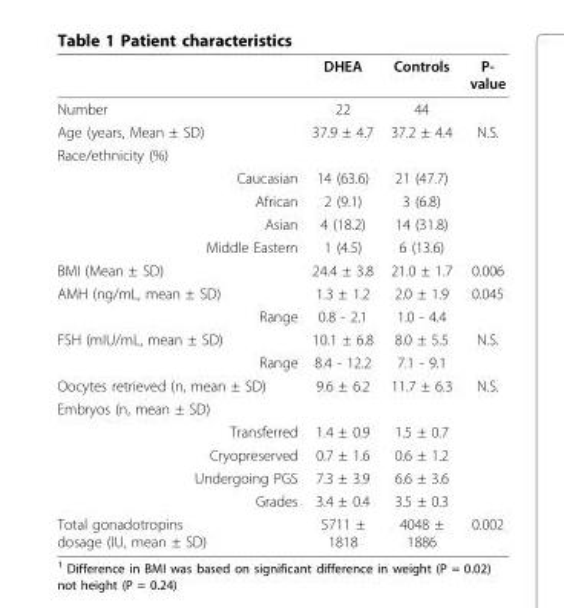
<table><thead><tr><td></td><td>DHEA</td><td>Controls</td><td>P- value</td></tr></thead><tbody><tr><td>Number</td><td>22</td><td>44</td><td></td></tr><tr><td>Age (years, Mean ± SD)</td><td>37.9 ± 4.7</td><td>37.2 ± 4.4</td><td>N.S.</td></tr><tr><td colspan="4">Race/ethnicity (%)</td></tr><tr><td>Caucasian</td><td>14 (63.6)</td><td>21 (47.7)</td><td></td></tr><tr><td>African</td><td>2 (9.1)</td><td>3 (6.8)</td><td></td></tr><tr><td>Asian</td><td>4 (18.2)</td><td>14 (31.8)</td><td></td></tr><tr><td>Middle Eastern</td><td>1 (4.5)</td><td>6 (13.6)</td><td></td></tr><tr><td>BMI (Mean ± SD)</td><td>24.4 ± 3.8</td><td>21.0 ± 1.7</td><td>0.006</td></tr><tr><td>AMH (ng/mL, mean ± SD)</td><td>1.3 ± 1.2</td><td>2.0 ± 1.9</td><td>0.045</td></tr><tr><td>Range</td><td>0.8 - 2.1</td><td>1.0 - 4.4</td><td></td></tr><tr><td>FSH (mIU/mL, mean ± SD)</td><td>10.1 ± 6.8</td><td>8.0 ± 5.5</td><td>N.S.</td></tr><tr><td>Range</td><td>8.4 - 12.2</td><td>7.1 - 9.1</td><td></td></tr><tr><td>Oocytes retrieved (n, mean ± SD)</td><td>9.6 ± 6.2</td><td>11.7 ± 6.3</td><td>N.S.</td></tr><tr><td colspan="4">Embryos (n, mean ± SD)</td></tr><tr><td>Transferred</td><td>1.4 ± 0.9</td><td>1.5 ± 0.7</td><td></td></tr><tr><td>Cryopreserved</td><td>0.7 ± 1.6</td><td>0.6 ± 1.2</td><td></td></tr><tr><td>Undergoing PGS</td><td>7.3 ± 3.9</td><td>6.6 ± 3.6</td><td></td></tr><tr><td>Grades</td><td>3.4 ± 0.4</td><td>3.5 ± 0.3</td><td></td></tr><tr><td>Total gonadotropins dosage (IU, mean ± SD)</td><td>5711 ± 1818</td><td>4048 ± 1886</td><td>0.002</td></tr></tbody></table>